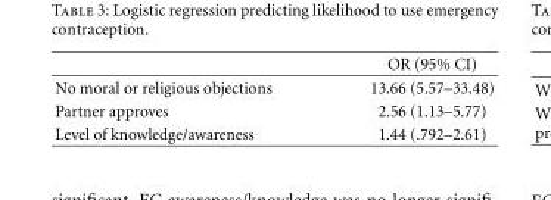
<table><thead><tr><td></td><td>OR (95% CI)</td></tr></thead><tbody><tr><td>No moral or religious objections</td><td>13.66 (5.57–33.48)</td></tr><tr><td>Partner approves</td><td>2.56 (1.13–5.77)</td></tr><tr><td>Level of knowledge/awareness</td><td>1.44 (.792–2.61)</td></tr></tbody></table>